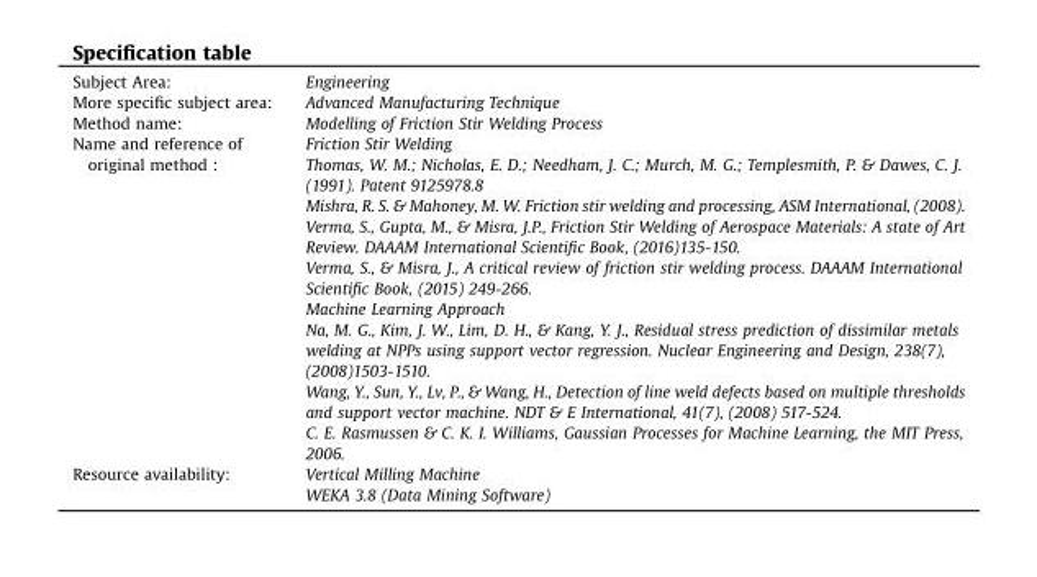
<table><tbody><tr><td>Subject Area:</td><td>Engineering</td></tr><tr><td>More specific subject area:</td><td>Advanced Manufacturing Technique</td></tr><tr><td>Method name:</td><td>Modelling of Friction Stir Welding Process</td></tr><tr><td>Name and reference of original method :</td><td>Friction Stir Welding Thomas, W. M.; Nicholas, E. D.; Needham, J. C.; Murch, M. G.; Templesmith, P. &amp; Dawes, C. J. (1991). Patent 9125978.8 Mishra, R. S. &amp; Mahoney, M. W. Friction stir welding and processing, ASM International, (2008). Verma, S., Gupta, M., &amp; Misra, J.P., Friction Stir Welding of Aerospace Materials: A state of Art Review. DAAAM International Scientific Book, (2016)135-150. Verma, S., &amp; Misra, J., A critical review of friction stir welding process. DAAAM International Scientific Book, (2015) 249-266. Machine Learning Approach Na, M. G., Kim, J. W., Lim, D. H., &amp; Kang, Y. J., Residual stress prediction of dissimilar metals welding at NPPs using support vector regression. Nuclear Engineering and Design, 238(7), (2008)1503-1510. Wang, Y., Sun, Y., Lv, P., &amp; Wang, H., Detection of line weld defects based on multiple thresholds and support vector machine. NDT &amp; E International, 41(7), (2008) 517-524. C. E. Rasmussen &amp; C. K. I. Williams, Gaussian Processes for Machine Learning, the MIT Press, 2006.</td></tr><tr><td>Resource availability:</td><td>Vertical Milling Machine WEKA 3.8 (Data Mining Software)</td></tr></tbody></table>